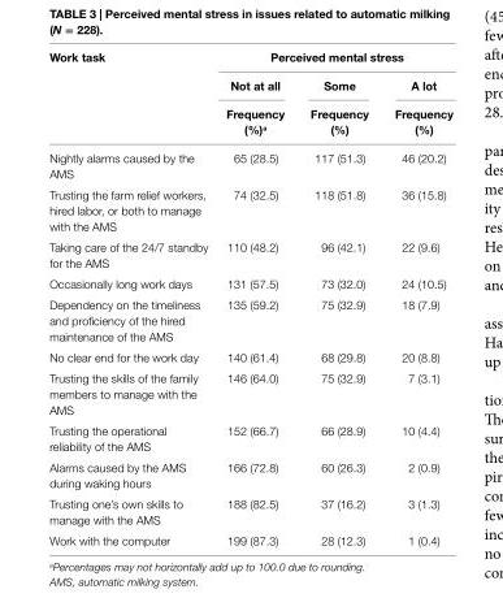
<table><thead><tr><td rowspan="3">Work task</td><td colspan="3">Perceived mental stress</td></tr><tr><td rowspan="2">not at all Frequency (%)<sup>a</sup></td><td rowspan="2">some Frequency (%)</td><td rowspan="2">a lot Frequency (%)</td></tr><tr></tr></thead><tbody><tr><td>Nightly alarms caused by the AMS</td><td>65 (28.5)</td><td>117 (51.3)</td><td>46 (20.2)</td></tr><tr><td>Trusting the farm relief workers, hired labor, or both to manage with the AMS</td><td>74 (32.5)</td><td>118 (51.8)</td><td>36 (15.8)</td></tr><tr><td>Taking care of the 24/7 standby for the AMS</td><td>110 (48.2)</td><td>96 (42.1)</td><td>22 (9.6)</td></tr><tr><td>Occasionally long work days</td><td>131 (57.5)</td><td>73 (32.0)</td><td>24 (10.5)</td></tr><tr><td>Dependency on the timeliness and proficiency of the hired maintenance of the AMS</td><td>135 (59.2)</td><td>75 (32.9)</td><td>18 (7.9)</td></tr><tr><td>No clear end for the work day</td><td>140 (61.4)</td><td>68 (29.8)</td><td>20 (8.8)</td></tr><tr><td>Trusting the skills of the family members to manage with the AMS</td><td>146 (64.0)</td><td>75 (32.9)</td><td>7 (3.1)</td></tr><tr><td>Trusting the operational reliability of the AMS</td><td>152 (66.7)</td><td>66 (28.9)</td><td>10 (4.4)</td></tr><tr><td>Alarms caused by the AMS during waking hours</td><td>166 (72.8)</td><td>60 (26.3)</td><td>2 (0.9)</td></tr><tr><td>Trusting one’s own skills to manage with the AMS</td><td>188 (82.5)</td><td>37 (16.2)</td><td>3 (1.3)</td></tr><tr><td>Work with the computer</td><td>199 (87.3)</td><td>28 (12.3)</td><td>1 (0.4)</td></tr></tbody></table>